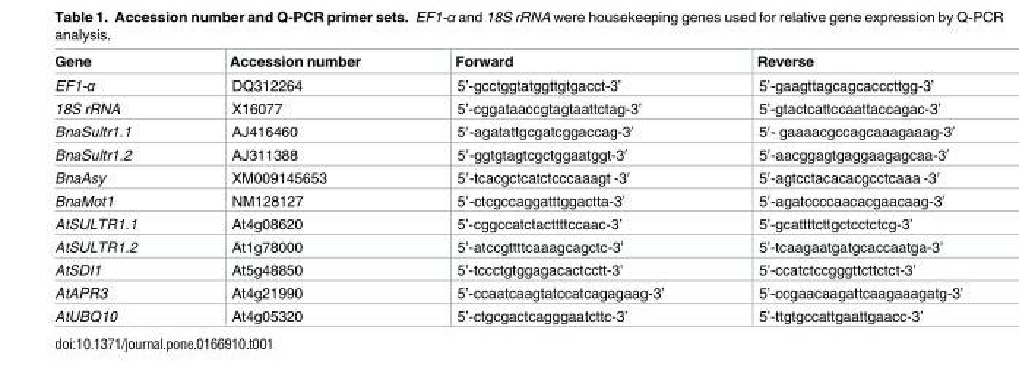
<table><thead><tr><td>Gene</td><td>Accession number</td><td>Forward</td><td>Reverse</td></tr></thead><tbody><tr><td>EF1-α</td><td>DQ312264</td><td>5’-gcctggtatggttgtgacct-3’</td><td>5’-gaagttagcagcacccttgg-3’</td></tr><tr><td>18S rRNA</td><td>X16077</td><td>5’-cggataaccgtagtaattctag-3’</td><td>5’-gtactcattccaattaccagac-3’</td></tr><tr><td>BnaSultr1.1</td><td>AJ416460</td><td>5′-agatattgcgatcggaccag-3′</td><td>5′- gaaaacgccagcaaagaaag-3′</td></tr><tr><td>BnaSultr1.2</td><td>AJ311388</td><td>5′-ggtgtagtcgctggaatggt-3′</td><td>5′-aacggagtgaggaagagcaa-3′</td></tr><tr><td>BnaAsy</td><td>XM009145653</td><td>5′-tcacgctcatctcccaaagt -3′</td><td>5′-agtcctacacacgcctcaaa -3′</td></tr><tr><td>BnaMot1</td><td>NM128127</td><td>5′-ctcgccaggatttggactta-3′</td><td>5′-agatccccaacacgaacaag-3′</td></tr><tr><td>AtSULTR1.1</td><td>At4g08620</td><td>5’-cggccatctacttttccaac-3’</td><td>5’-gcattttcttgctcctctcg-3’</td></tr><tr><td>AtSULTR1.2</td><td>At1g78000</td><td>5’-atccgttttcaaagcagctc-3’</td><td>5’-tcaagaatgatgcaccaatga-3’</td></tr><tr><td>AtSDI1</td><td>At5g48850</td><td>5’-tccctgtggagacactcctt-3’</td><td>5’-ccatctccgggttcttctct-3’</td></tr><tr><td>AtAPR3</td><td>At4g21990</td><td>5’-ccaatcaagtatccatcagagaag-3’</td><td>5’-ccgaacaagattcaagaaagatg-3’</td></tr><tr><td>AtUBQ10</td><td>At4g05320</td><td>5’-ctgcgactcagggaatcttc-3’</td><td>5’-ttgtgccattgaattgaacc-3’</td></tr></tbody></table>